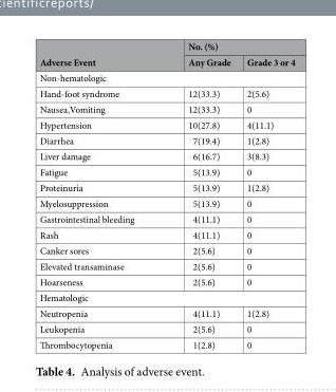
<table><thead><tr><td rowspan="2">Adverse Event</td><td colspan="2">No. (%)</td></tr><tr><td>Any Grade</td><td>Grade 3 or 4</td></tr></thead><tbody><tr><td colspan="3">Non-hematologic</td></tr><tr><td>Hand-foot syndrome</td><td>12(33.3)</td><td>2(5.6)</td></tr><tr><td>Nausea,Vomiting</td><td>12(33.3)</td><td>0</td></tr><tr><td>Hypertension</td><td>10(27.8)</td><td>4(11.1)</td></tr><tr><td>Diarrhea</td><td>7(19.4)</td><td>1(2.8)</td></tr><tr><td>Liver damage</td><td>6(16.7)</td><td>3(8.3)</td></tr><tr><td>Fatigue</td><td>5(13.9)</td><td>0</td></tr><tr><td>Proteinuria</td><td>5(13.9)</td><td>1(2.8)</td></tr><tr><td>Myelosuppression</td><td>5(13.9)</td><td>0</td></tr><tr><td>Gastrointestinal bleeding</td><td>4(11.1)</td><td>0</td></tr><tr><td>Rash</td><td>4(11.1)</td><td>0</td></tr><tr><td>Canker sores</td><td>2(5.6)</td><td>0</td></tr><tr><td>Elevated transaminase</td><td>2(5.6)</td><td>0</td></tr><tr><td>Hoarseness</td><td>2(5.6)</td><td>0</td></tr><tr><td colspan="3">Hematologic</td></tr><tr><td>Neutropenia</td><td>4(11.1)</td><td>1(2.8)</td></tr><tr><td>Leukopenia</td><td>2(5.6)</td><td>0</td></tr><tr><td>Thrombocytopenia</td><td>1(2.8)</td><td>0</td></tr></tbody></table>